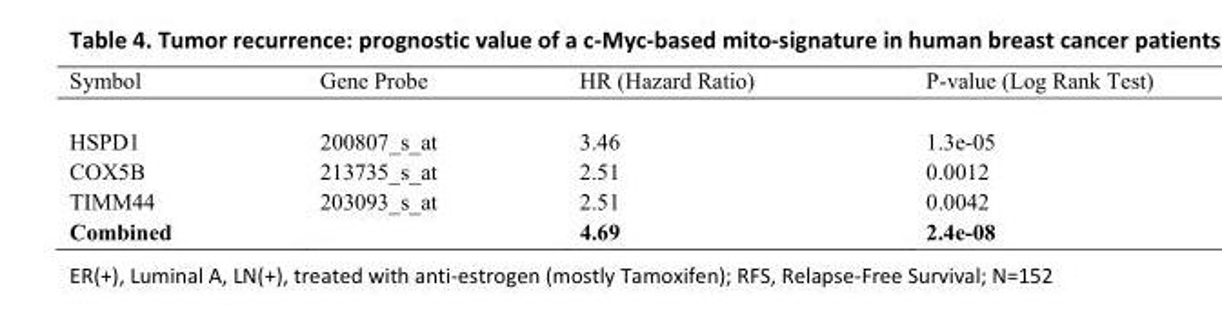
<table><thead><tr><td>Symbol</td><td>Gene Probe</td><td>HR (Hazard Ratio)</td><td>P-value (Log Rank Test)</td></tr></thead><tbody><tr><td>HSPD1</td><td>200807_s_at</td><td>3.46</td><td>1.3e-05</td></tr><tr><td>COX5B</td><td>213735_s_at</td><td>2.51</td><td>0.0012</td></tr><tr><td>TIMM44</td><td>203093_s_at</td><td>2.51</td><td>0.0042</td></tr><tr><td>Combined</td><td></td><td>4.69</td><td>2.4e-08</td></tr></tbody></table>